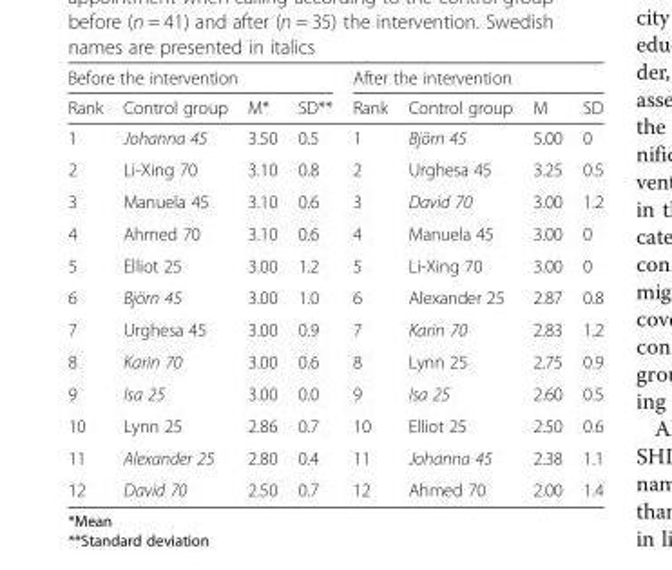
<table><thead><tr><td colspan="4">Before the intervention</td><td colspan="4">After the intervention</td></tr><tr><td>Rank</td><td>Control group</td><td>M*</td><td>SD**</td><td>Rank</td><td>Control group</td><td>M</td><td>SD</td></tr></thead><tbody><tr><td>1</td><td>Johanna 45</td><td>3.50</td><td>0.5</td><td>1</td><td>Björn 45</td><td>5.00</td><td>0</td></tr><tr><td>2</td><td>Li-Xing 70</td><td>3.10</td><td>0.8</td><td>2</td><td>Urghesa 45</td><td>3.25</td><td>0.5</td></tr><tr><td>3</td><td>Manuela 45</td><td>3.10</td><td>0.6</td><td>3</td><td>David 70</td><td>3.00</td><td>1.2</td></tr><tr><td>4</td><td>Ahmed 70</td><td>3.10</td><td>0.6</td><td>4</td><td>Manuela 45</td><td>3.00</td><td>0</td></tr><tr><td>5</td><td>Elliot 25</td><td>3.00</td><td>1.2</td><td>5</td><td>Li-Xing 70</td><td>3.00</td><td>0</td></tr><tr><td>6</td><td>Björn 45</td><td>3.00</td><td>1.0</td><td>6</td><td>Alexander 25</td><td>2.87</td><td>0.8</td></tr><tr><td>7</td><td>Urghesa 45</td><td>3.00</td><td>0.9</td><td>7</td><td>Karin 70</td><td>2.83</td><td>1.2</td></tr><tr><td>8</td><td>Karin 70</td><td>3.00</td><td>0.6</td><td>8</td><td>Lynn 25</td><td>2.75</td><td>0.9</td></tr><tr><td>9</td><td>Isa 25</td><td>3.00</td><td>0.0</td><td>9</td><td>Isa 25</td><td>2.60</td><td>0.5</td></tr><tr><td>10</td><td>Lynn 25</td><td>2.86</td><td>0.7</td><td>10</td><td>Elliot 25</td><td>2.50</td><td>0.6</td></tr><tr><td>11</td><td>Alexander 25</td><td>2.80</td><td>0.4</td><td>11</td><td>Johanna 45</td><td>2.38</td><td>1.1</td></tr><tr><td>12</td><td>David 70</td><td>2.50</td><td>0.7</td><td>12</td><td>Ahmed 70</td><td>2.00</td><td>1.4</td></tr></tbody></table>